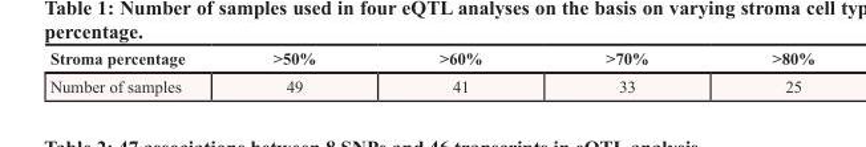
<table><thead><tr><td>Stroma percentage</td><td>&gt;50%</td><td>&gt;60%</td><td>&gt;70%</td><td>&gt;80%</td></tr></thead><tbody><tr><td>Number of samples</td><td>49</td><td>41</td><td>33</td><td>25</td></tr></tbody></table>